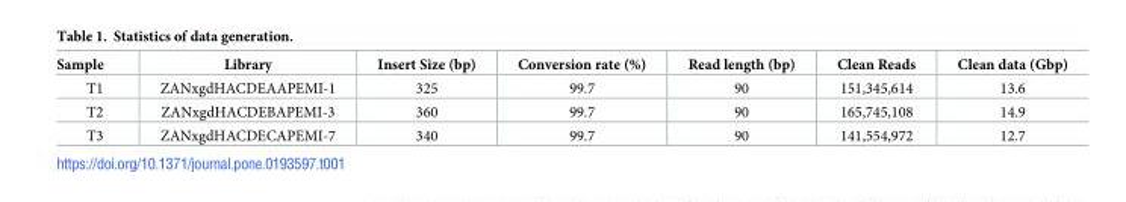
<table><thead><tr><td>Sample</td><td>Library</td><td>Insert Size (bp)</td><td>Conversion rate (%)</td><td>Read length (bp)</td><td>Clean Reads</td><td>Clean data (Gbp)</td></tr></thead><tbody><tr><td>T1</td><td>ZANxgdHACDEAAPEMI-1</td><td>325</td><td>99.7</td><td>90</td><td>151,345,614</td><td>13.6</td></tr><tr><td>T2</td><td>ZANxgdHACDEBAPEMI-3</td><td>360</td><td>99.7</td><td>90</td><td>165,745,108</td><td>14.9</td></tr><tr><td>T3</td><td>ZANxgdHACDECAPEMI-7</td><td>340</td><td>99.7</td><td>90</td><td>141,554,972</td><td>12.7</td></tr></tbody></table>